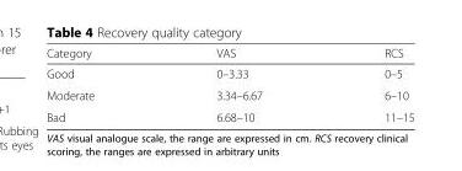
<table><thead><tr><td>Category</td><td>VAS</td><td>RCS</td></tr></thead><tbody><tr><td>Good</td><td>0–3.33</td><td>0–5</td></tr><tr><td>Moderate</td><td>3.34–6.67</td><td>6–10</td></tr><tr><td>Bad</td><td>6.68–10</td><td>11–15</td></tr></tbody></table>